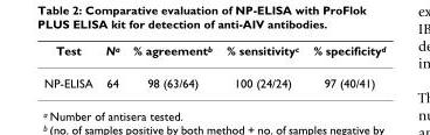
<table><thead><tr><td>Test</td><td>N<sup>a</sup></td><td>% agreement<sup>b</sup></td><td>% sensitivity<sup>c</sup></td><td>% specificity<sup>d</sup></td></tr></thead><tbody><tr><td>NP-ELISA</td><td>64</td><td>98 (63/64)</td><td>100 (24/24)</td><td>97 (40/41)</td></tr></tbody></table>